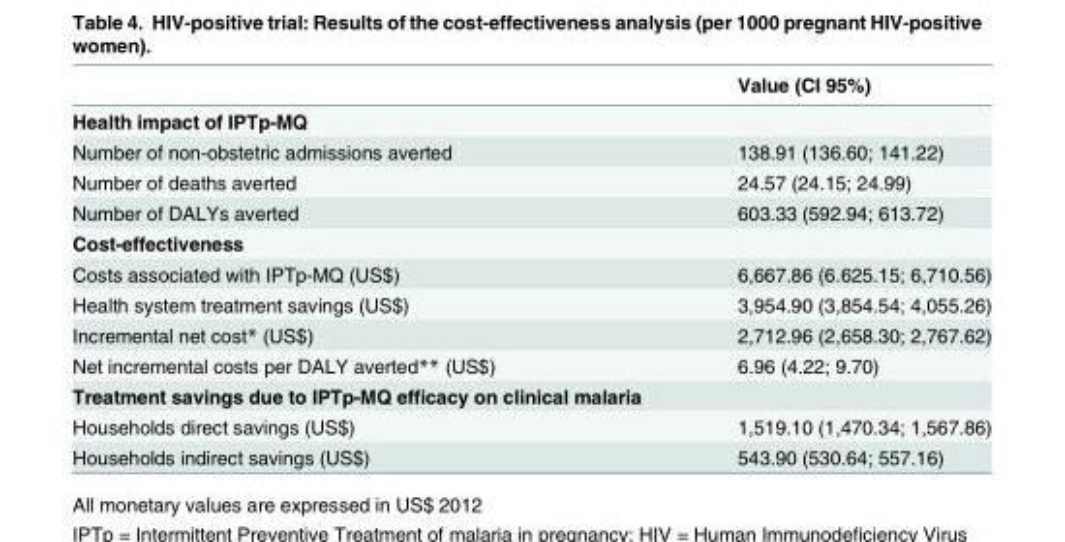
<table><thead><tr><td></td><td>Value (CI 95%)</td></tr></thead><tbody><tr><td colspan="2">Health impact of IPTp-MQ</td></tr><tr><td>Number of non-obstetric admissions averted</td><td>138.91 (136.60; 141.22)</td></tr><tr><td>Number of deaths averted</td><td>24.57 (24.15; 24.99)</td></tr><tr><td>Number of DALYs averted</td><td>603.33 (592.94; 613.72)</td></tr><tr><td colspan="2">Cost-effectiveness</td></tr><tr><td>Costs associated with IPTp-MQ (US$)</td><td>6,667.86 (6.625.15; 6,710.56)</td></tr><tr><td>Health system treatment savings (US$)</td><td>3,954.90 (3,854.54; 4,055.26)</td></tr><tr><td>Incremental net cost* (US$)</td><td>2,712.96 (2,658.30; 2,767.62)</td></tr><tr><td>Net incremental costs per DALY averted** (US$)</td><td>6.96 (4.22; 9.70)</td></tr><tr><td colspan="2">Treatment savings due to IPTp-MQ efficacy on clinical malaria</td></tr><tr><td>Households direct savings (US$)</td><td>1,519.10 (1,470.34; 1,567.86)</td></tr><tr><td>Households indirect savings (US$)</td><td>543.90 (530.64; 557.16)</td></tr></tbody></table>